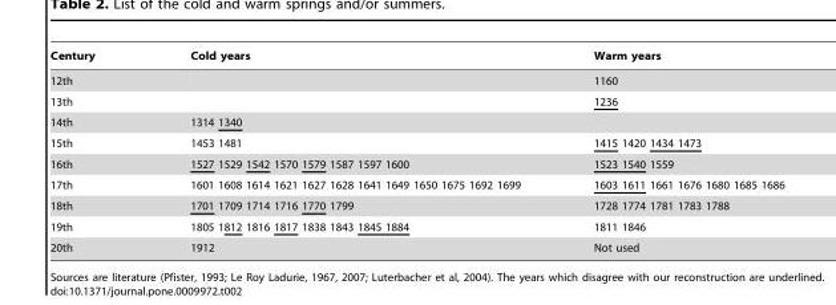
<table><thead><tr><td>Century</td><td>Cold years</td><td>Warm years</td></tr></thead><tbody><tr><td>12th</td><td></td><td>1160</td></tr><tr><td>13th</td><td></td><td>1236</td></tr><tr><td>14th</td><td>1314 1340</td><td></td></tr><tr><td>15th</td><td>1453 1481</td><td>1415 1420 1434 1473</td></tr><tr><td>16th</td><td>1527 1529 1542 1570 1579 1587 1597 1600</td><td>1523 1540 1559</td></tr><tr><td>17th</td><td>1601 1608 1614 1621 1627 1628 1641 1649 1650 1675 1692 1699</td><td>1603 1611 1661 1676 1680 1685 1686</td></tr><tr><td>18th</td><td>1701 1709 1714 1716 1770 1799</td><td>1728 1774 1781 1783 1788</td></tr><tr><td>19th</td><td>1805 1812 1816 1817 1838 1843 1845 1884</td><td>1811 1846</td></tr><tr><td>20th</td><td>1912</td><td>Not used</td></tr></tbody></table>